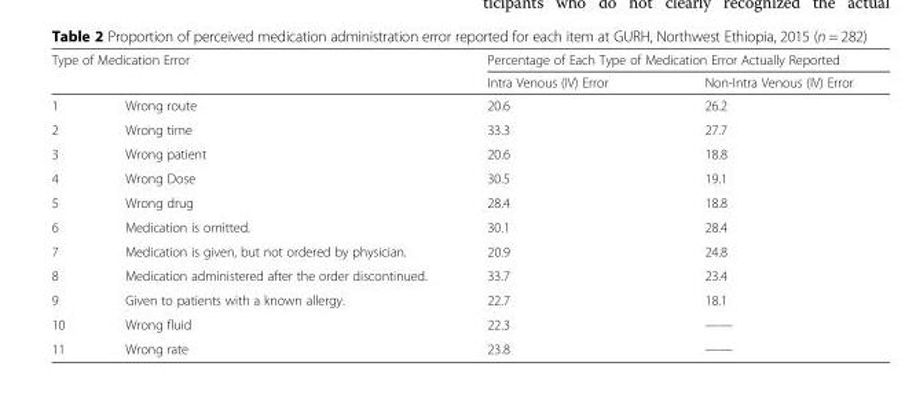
<table><thead><tr><td rowspan="2" colspan="2">Type of Medication Error</td><td colspan="2">Percentage of Each Type of Medication Error Actually Reported</td></tr><tr><td rowspan="2">Intra Venous (IV) Error 20.6</td><td rowspan="2">Non-Intra Venous (IV) Error 26.2</td></tr><tr><td>1</td><td>Wrong route</td></tr></thead><tbody><tr><td>2</td><td>Wrong time</td><td>33.3</td><td>27.7</td></tr><tr><td>3</td><td>Wrong patient</td><td>20.6</td><td>18.8</td></tr><tr><td>4</td><td>Wrong Dose</td><td>30.5</td><td>19.1</td></tr><tr><td>5</td><td>Wrong drug</td><td>28.4</td><td>18.8</td></tr><tr><td>6</td><td>Medication is omitted.</td><td>30.1</td><td>28.4</td></tr><tr><td>7</td><td>Medication is given, but not ordered by physician.</td><td>20.9</td><td>24.8</td></tr><tr><td>8</td><td>Medication administered after the order discontinued.</td><td>33.7</td><td>23.4</td></tr><tr><td>9</td><td>Given to patients with a known allergy.</td><td>22.7</td><td>18.1</td></tr><tr><td>10</td><td>Wrong fluid</td><td>22.3</td><td>——</td></tr><tr><td>11</td><td>Wrong rate</td><td>23.8</td><td>——</td></tr></tbody></table>